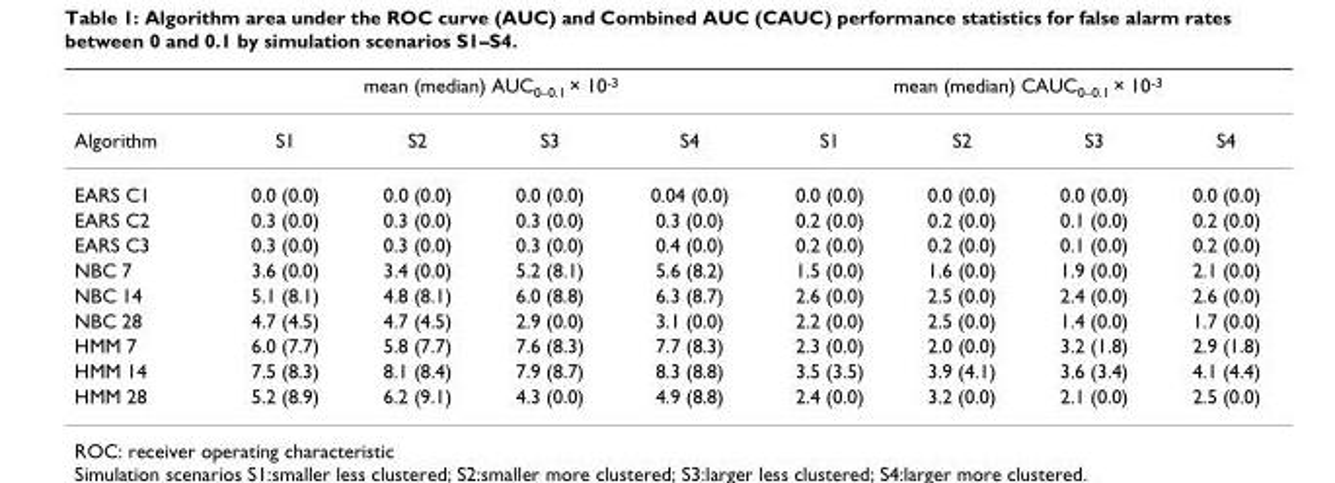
<table><thead><tr><td rowspan="2">Algorithm</td><td colspan="4">mean (median) AUC<sub>0–0.1</sub> × 10<sup>-3</sup></td><td colspan="4">mean (median) CAUC<sub>0–0.1</sub> × 10<sup>-3</sup></td></tr><tr><td>S1</td><td>S2</td><td>S3</td><td>S4</td><td>S1</td><td>S2</td><td>S3</td><td>S4</td></tr></thead><tbody><tr><td>EARS C1</td><td>0.0 (0.0)</td><td>0.0 (0.0)</td><td>0.0 (0.0)</td><td>0.04 (0.0)</td><td>0.0 (0.0)</td><td>0.0 (0.0)</td><td>0.0 (0.0)</td><td>0.0 (0.0)</td></tr><tr><td>EARS C2</td><td>0.3 (0.0)</td><td>0.3 (0.0)</td><td>0.3 (0.0)</td><td>0.3 (0.0)</td><td>0.2 (0.0)</td><td>0.2 (0.0)</td><td>0.1 (0.0)</td><td>0.2 (0.0)</td></tr><tr><td>EARS C3</td><td>0.3 (0.0)</td><td>0.3 (0.0)</td><td>0.3 (0.0)</td><td>0.4 (0.0)</td><td>0.2 (0.0)</td><td>0.2 (0.0)</td><td>0.1 (0.0)</td><td>0.2 (0.0)</td></tr><tr><td>NBC 7</td><td>3.6 (0.0)</td><td>3.4 (0.0)</td><td>5.2 (8.1)</td><td>5.6 (8.2)</td><td>1.5 (0.0)</td><td>1.6 (0.0)</td><td>1.9 (0.0)</td><td>2.1 (0.0)</td></tr><tr><td>NBC 14</td><td>5.1 (8.1)</td><td>4.8 (8.1)</td><td>6.0 (8.8)</td><td>6.3 (8.7)</td><td>2.6 (0.0)</td><td>2.5 (0.0)</td><td>2.4 (0.0)</td><td>2.6 (0.0)</td></tr><tr><td>NBC 28</td><td>4.7 (4.5)</td><td>4.7 (4.5)</td><td>2.9 (0.0)</td><td>3.1 (0.0)</td><td>2.2 (0.0)</td><td>2.5 (0.0)</td><td>1.4 (0.0)</td><td>1.7 (0.0)</td></tr><tr><td>HMM 7</td><td>6.0 (7.7)</td><td>5.8 (7.7)</td><td>7.6 (8.3)</td><td>7.7 (8.3)</td><td>2.3 (0.0)</td><td>2.0 (0.0)</td><td>3.2 (1.8)</td><td>2.9 (1.8)</td></tr><tr><td>HMM 14</td><td>7.5 (8.3)</td><td>8.1 (8.4)</td><td>7.9 (8.7)</td><td>8.3 (8.8)</td><td>3.5 (3.5)</td><td>3.9 (4.1)</td><td>3.6 (3.4)</td><td>4.1 (4.4)</td></tr><tr><td>HMM 28</td><td>5.2 (8.9)</td><td>6.2 (9.1)</td><td>4.3 (0.0)</td><td>4.9 (8.8)</td><td>2.4 (0.0)</td><td>3.2 (0.0)</td><td>2.1 (0.0)</td><td>2.5 (0.0)</td></tr></tbody></table>